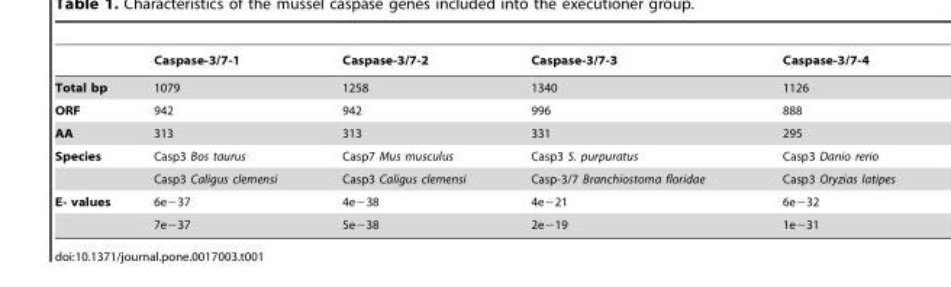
<table><thead><tr><td></td><td>Caspase-3/7-1</td><td>Caspase-3/7-2</td><td>Caspase-3/7-3</td><td>Caspase-3/7-4</td></tr></thead><tbody><tr><td>Total bp</td><td>1079</td><td>1258</td><td>1340</td><td>1126</td></tr><tr><td>ORF</td><td>942</td><td>942</td><td>996</td><td>888</td></tr><tr><td>AA</td><td>313</td><td>313</td><td>331</td><td>295</td></tr><tr><td rowspan="2">Species</td><td>Casp3 Bos taurus</td><td>Casp7 Mus musculus</td><td>Casp3 S. purpuratus</td><td>Casp3 Danio rerio</td></tr><tr><td>Casp3 Caligus clemensi</td><td>Casp3 Caligus clemensi</td><td>Casp-3/7 Branchiostoma floridae</td><td>Casp3 Oryzias latipes</td></tr><tr><td rowspan="2">E- values</td><td>6e−37</td><td>4e−38</td><td>4e−21</td><td>6e−32</td></tr><tr><td>7e−37</td><td>5e−38</td><td>2e−19</td><td>1e−31</td></tr></tbody></table>